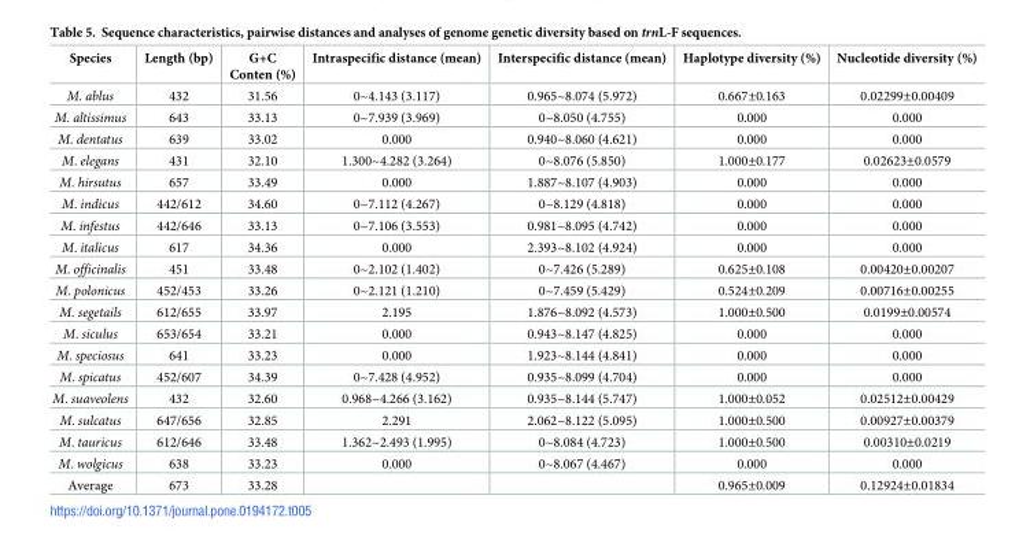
<table><thead><tr><td>Species</td><td>Length (bp)</td><td>G+C Conten (%)</td><td>Intraspecific distance (mean)</td><td>Interspecific distance (mean)</td><td>Haplotype diversity (%)</td><td>Nucleotide diversity (%)</td></tr></thead><tbody><tr><td>M. ablus</td><td>432</td><td>31.56</td><td>0~4.143 (3.117)</td><td>0.965~8.074 (5.972)</td><td>0.667±0.163</td><td>0.02299±0.00409</td></tr><tr><td>M. altissimus</td><td>643</td><td>33.13</td><td>0~7.939 (3.969)</td><td>0~8.050 (4.755)</td><td>0.000</td><td>0.000</td></tr><tr><td>M. dentatus</td><td>639</td><td>33.02</td><td>0.000</td><td>0.940~8.060 (4.621)</td><td>0.000</td><td>0.000</td></tr><tr><td>M. elegans</td><td>431</td><td>32.10</td><td>1.300~4.282 (3.264)</td><td>0~8.076 (5.850)</td><td>1.000±0.177</td><td>0.02623±0.0579</td></tr><tr><td>M. hirsutus</td><td>657</td><td>33.49</td><td>0.000</td><td>1.887~8.107 (4.903)</td><td>0.000</td><td>0.000</td></tr><tr><td>M. indicus</td><td>442/612</td><td>34.60</td><td>0~7.112 (4.267)</td><td>0~8.129 (4.818)</td><td>0.000</td><td>0.000</td></tr><tr><td>M. infestus</td><td>442/646</td><td>33.13</td><td>0~7.106 (3.553)</td><td>0.981~8.095 (4.742)</td><td>0.000</td><td>0.000</td></tr><tr><td>M. italicus</td><td>617</td><td>34.36</td><td>0.000</td><td>2.393~8.102 (4.924)</td><td>0.000</td><td>0.000</td></tr><tr><td>M. officinalis</td><td>451</td><td>33.48</td><td>0~2.102 (1.402)</td><td>0~7.426 (5.289)</td><td>0.625±0.108</td><td>0.00420±0.00207</td></tr><tr><td>M. polonicus</td><td>452/453</td><td>33.26</td><td>0~2.121 (1.210)</td><td>0~7.459 (5.429)</td><td>0.524±0.209</td><td>0.00716±0.00255</td></tr><tr><td>M. segetails</td><td>612/655</td><td>33.97</td><td>2.195</td><td>1.876~8.092 (4.573)</td><td>1.000±0.500</td><td>0.0199±0.00574</td></tr><tr><td>M. siculus</td><td>653/654</td><td>33.21</td><td>0.000</td><td>0.943~8.147 (4.825)</td><td>0.000</td><td>0.000</td></tr><tr><td>M. speciosus</td><td>641</td><td>33.23</td><td>0.000</td><td>1.923~8.144 (4.841)</td><td>0.000</td><td>0.000</td></tr><tr><td>M. spicatus</td><td>452/607</td><td>34.39</td><td>0~7.428 (4.952)</td><td>0.935~8.099 (4.704)</td><td>0.000</td><td>0.000</td></tr><tr><td>M. suaveolens</td><td>432</td><td>32.60</td><td>0.968~4.266 (3.162)</td><td>0.935~8.144 (5.747)</td><td>1.000±0.052</td><td>0.02512±0.00429</td></tr><tr><td>M. sulcatus</td><td>647/656</td><td>32.85</td><td>2.291</td><td>2.062~8.122 (5.095)</td><td>1.000±0.500</td><td>0.00927±0.00379</td></tr><tr><td>M. tauricus</td><td>612/646</td><td>33.48</td><td>1.362~2.493 (1.995)</td><td>0~8.084 (4.723)</td><td>1.000±0.500</td><td>0.00310±0.0219</td></tr><tr><td>M. wolgicus</td><td>638</td><td>33.23</td><td>0.000</td><td>0~8.067 (4.467)</td><td>0.000</td><td>0.000</td></tr><tr><td>Average</td><td>673</td><td>33.28</td><td></td><td></td><td>0.965±0.009</td><td>0.12924±0.01834</td></tr></tbody></table>